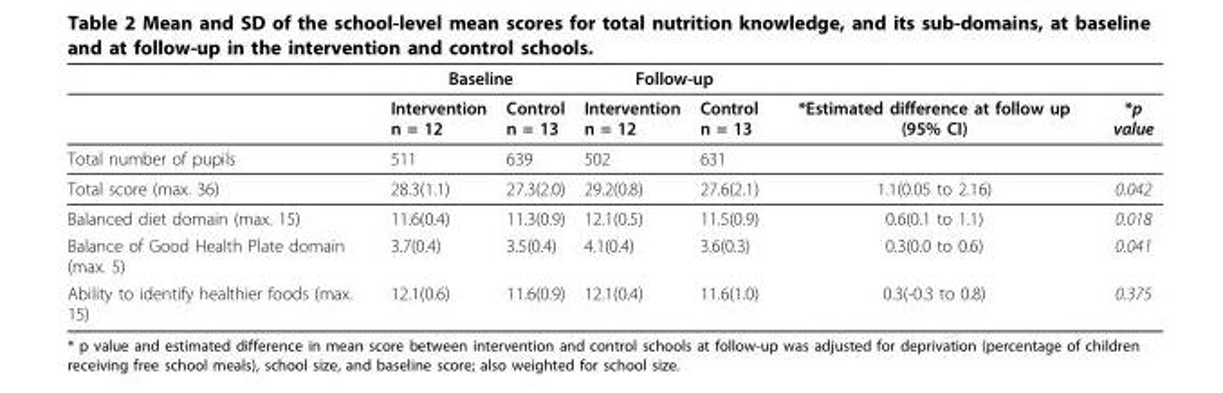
<table><thead><tr><td rowspan="2"></td><td colspan="2">Baseline</td><td colspan="2">Follow-up</td><td rowspan="2">*Estimated difference at follow up (95% CI)</td><td rowspan="2">*p value</td></tr><tr><td>Intervention n = 12</td><td>Control n = 13</td><td>Intervention n = 12</td><td>Control n = 13</td></tr></thead><tbody><tr><td>Total number of pupils</td><td>511</td><td>639</td><td>502</td><td>631</td><td></td><td></td></tr><tr><td>Total score (max. 36)</td><td>28.3(1.1)</td><td>27.3(2.0)</td><td>29.2(0.8)</td><td>27.6(2.1)</td><td>1.1(0.05 to 2.16)</td><td>0.042</td></tr><tr><td>Balanced diet domain (max. 15)</td><td>11.6(0.4)</td><td>11.3(0.9)</td><td>12.1(0.5)</td><td>11.5(0.9)</td><td>0.6(0.1 to 1.1)</td><td>0.018</td></tr><tr><td>Balance of Good Health Plate domain (max. 5)</td><td>3.7(0.4)</td><td>3.5(0.4)</td><td>4.1(0.4)</td><td>3.6(0.3)</td><td>0.3(0.0 to 0.6)</td><td>0.041</td></tr><tr><td>Ability to identify healthier foods (max. 15)</td><td>12.1(0.6)</td><td>11.6(0.9)</td><td>12.1(0.4)</td><td>11.6(1.0)</td><td>0.3(-0.3 to 0.8)</td><td>0.375</td></tr></tbody></table>